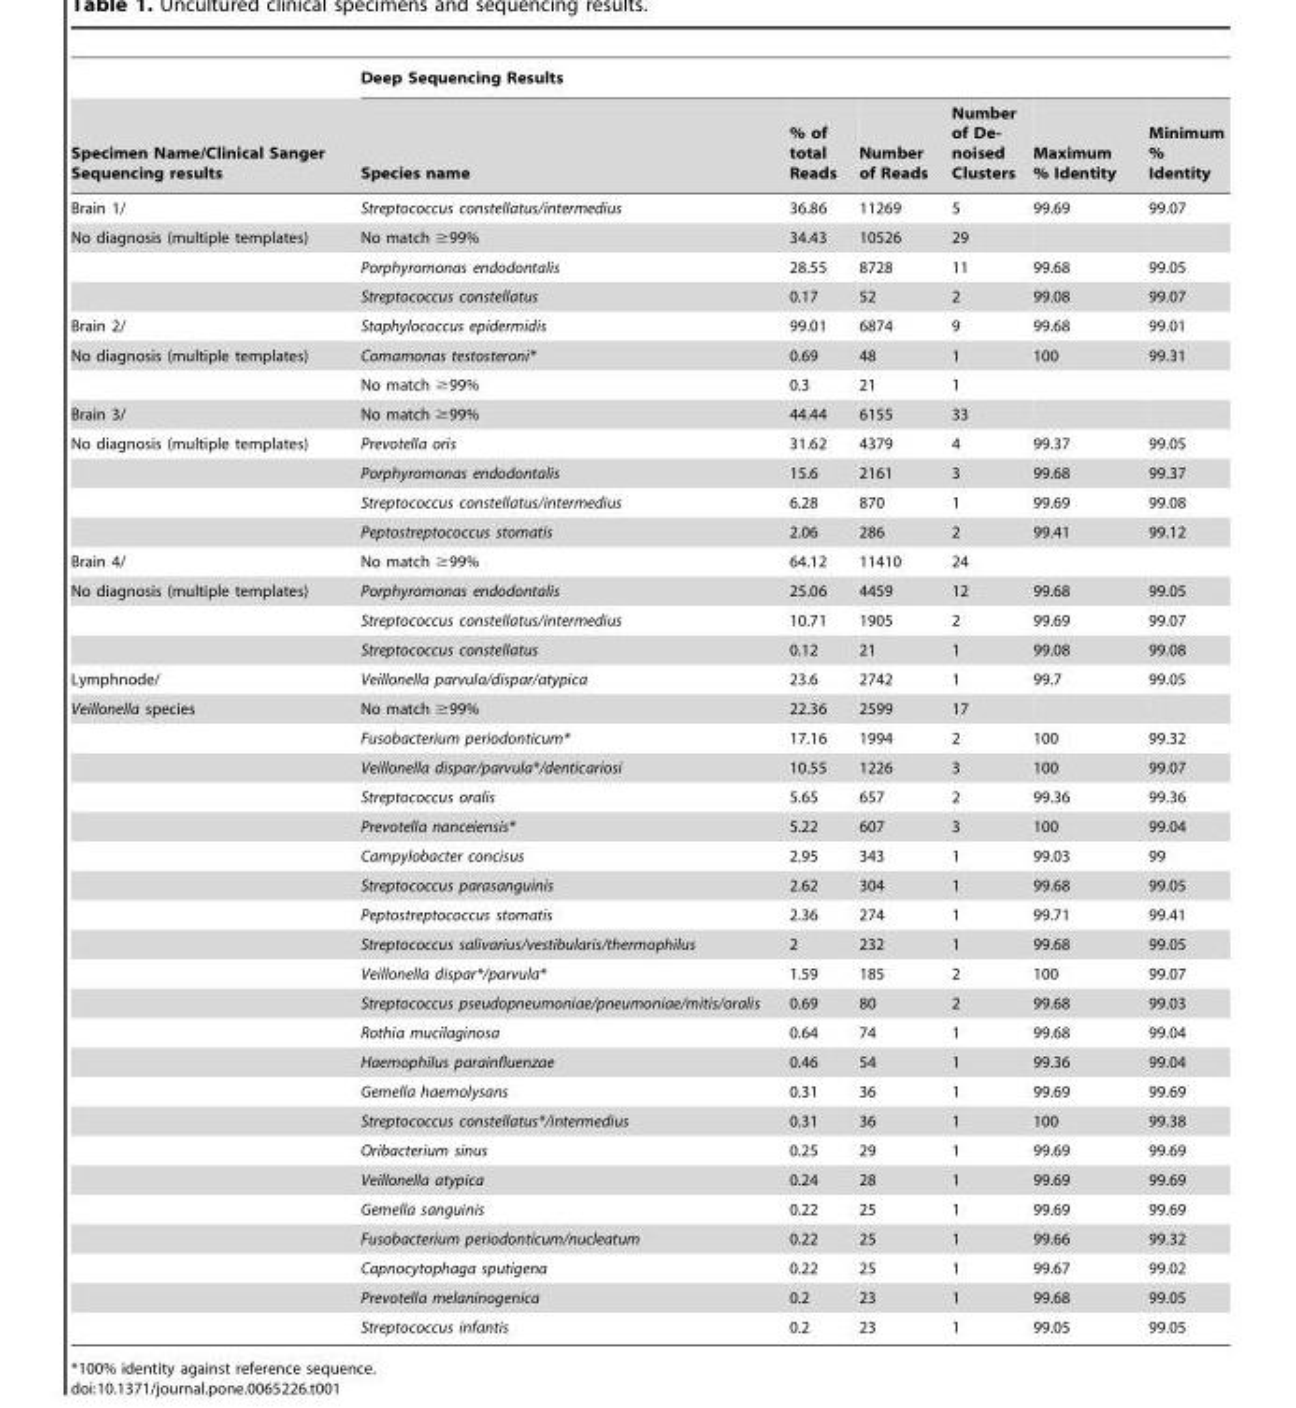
<table><thead><tr><td rowspan="2">Specimen Name/Clinical Sanger Sequencing results</td><td colspan="6">Deep Sequencing Results</td></tr><tr><td>Species name</td><td>% of total Reads</td><td>Number of Reads</td><td>Number of De- noised Clusters</td><td>Maximum % Identity</td><td>Minimum % Identity</td></tr></thead><tbody><tr><td>Brain 1/</td><td>Streptococcus constellatus/intermedius</td><td>36.86</td><td>11269</td><td>5</td><td>99.69</td><td>99.07</td></tr><tr><td rowspan="3">No diagnosis (multiple templates)</td><td>No match ≥99%</td><td>34.43</td><td>10526</td><td>29</td><td></td><td></td></tr><tr><td>Porphyromonas endodontalis</td><td>28.55</td><td>8728</td><td>11</td><td>99.68</td><td>99.05</td></tr><tr><td>Streptococcus constellatus</td><td>0.17</td><td>52</td><td>2</td><td>99.08</td><td>99.07</td></tr><tr><td>Brain 2/</td><td>Staphylococcus epidermidis</td><td>99.01</td><td>6874</td><td>9</td><td>99.68</td><td>99.01</td></tr><tr><td rowspan="2">No diagnosis (multiple templates)</td><td>Comamonas testosteroni*</td><td>0.69</td><td>48</td><td>1</td><td>100</td><td>99.31</td></tr><tr><td>No match ≥99%</td><td>0.3</td><td>21</td><td>1</td><td></td><td></td></tr><tr><td>Brain 3/</td><td>No match ≥99%</td><td>44.44</td><td>6155</td><td>33</td><td></td><td></td></tr><tr><td rowspan="4">No diagnosis (multiple templates)</td><td>Prevotella oris</td><td>31.62</td><td>4379</td><td>4</td><td>99.37</td><td>99.05</td></tr><tr><td>Porphyromonas endodontalis</td><td>15.6</td><td>2161</td><td>3</td><td>99.68</td><td>99.37</td></tr><tr><td>Streptococcus constellatus/intermedius</td><td>6.28</td><td>870</td><td>1</td><td>99.69</td><td>99.08</td></tr><tr><td>Peptostreptococcus stomatis</td><td>2.06</td><td>286</td><td>2</td><td>99.41</td><td>99.12</td></tr><tr><td>Brain 4/</td><td>No match ≥99%</td><td>64.12</td><td>11410</td><td>24</td><td></td><td></td></tr><tr><td rowspan="3">No diagnosis (multiple templates)</td><td>Porphyromonas endodontalis</td><td>25.06</td><td>4459</td><td>12</td><td>99.68</td><td>99.05</td></tr><tr><td>Streptococcus constellatus/intermedius</td><td>10.71</td><td>1905</td><td>2</td><td>99.69</td><td>99.07</td></tr><tr><td>Streptococcus constellatus</td><td>0.12</td><td>21</td><td>1</td><td>99.08</td><td>99.08</td></tr><tr><td>Lymphnode/</td><td>Veillonella parvula/dispar/atypica</td><td>23.6</td><td>2742</td><td>1</td><td>99.7</td><td>99.05</td></tr><tr><td rowspan="22">Veillonella species</td><td>No match ≥99%</td><td>22.36</td><td>2599</td><td>17</td><td></td><td></td></tr><tr><td>Fusobacterium periodonticum*</td><td>17.16</td><td>1994</td><td>2</td><td>100</td><td>99.32</td></tr><tr><td>Veillonella dispar/parvula*/denticariosi</td><td>10.55</td><td>1226</td><td>3</td><td>100</td><td>99.07</td></tr><tr><td>Streptococcus oralis</td><td>5.65</td><td>657</td><td>2</td><td>99.36</td><td>99.36</td></tr><tr><td>Prevotella nanceiensis*</td><td>5.22</td><td>607</td><td>3</td><td>100</td><td>99.04</td></tr><tr><td>Campylobacter concisus</td><td>2.95</td><td>343</td><td>1</td><td>99.03</td><td>99</td></tr><tr><td>Streptococcus parasanguinis</td><td>2.62</td><td>304</td><td>1</td><td>99.68</td><td>99.05</td></tr><tr><td>Peptostreptococcus stomatis</td><td>2.36</td><td>274</td><td>1</td><td>99.71</td><td>99.41</td></tr><tr><td>Streptococcus salivarius/vestibularis/thermophilus</td><td>2</td><td>232</td><td>1</td><td>99.68</td><td>99.05</td></tr><tr><td>Veillonella dispar*/parvula*</td><td>1.59</td><td>185</td><td>2</td><td>100</td><td>99.07</td></tr><tr><td>Streptococcus pseudopneumoniae/pneumoniae/mitis/oralis</td><td>0.69</td><td>80</td><td>2</td><td>99.68</td><td>99.03</td></tr><tr><td>Rothia mucilaginosa</td><td>0.64</td><td>74</td><td>1</td><td>99.68</td><td>99.04</td></tr><tr><td>Haemophilus parainfluenzae</td><td>0.46</td><td>54</td><td>1</td><td>99.36</td><td>99.04</td></tr><tr><td>Gemella haemolysans</td><td>0.31</td><td>36</td><td>1</td><td>99.69</td><td>99.69</td></tr><tr><td>Streptococcus constellatus*/intermedius</td><td>0.31</td><td>36</td><td>1</td><td>100</td><td>99.38</td></tr><tr><td>Oribacterium sinus</td><td>0.25</td><td>29</td><td>1</td><td>99.69</td><td>99.69</td></tr><tr><td>Veillonella atypica</td><td>0.24</td><td>28</td><td>1</td><td>99.69</td><td>99.69</td></tr><tr><td>Gemella sanguinis</td><td>0.22</td><td>25</td><td>1</td><td>99.69</td><td>99.69</td></tr><tr><td>Fusobacterium periodonticum/nucleatum</td><td>0.22</td><td>25</td><td>1</td><td>99.66</td><td>99.32</td></tr><tr><td>Capnocytophaga sputigena</td><td>0.22</td><td>25</td><td>1</td><td>99.67</td><td>99.02</td></tr><tr><td>Prevotella melaninogenica</td><td>0.2</td><td>23</td><td>1</td><td>99.68</td><td>99.05</td></tr><tr><td>Streptococcus infantis</td><td>0.2</td><td>23</td><td>1</td><td>99.05</td><td>99.05</td></tr></tbody></table>